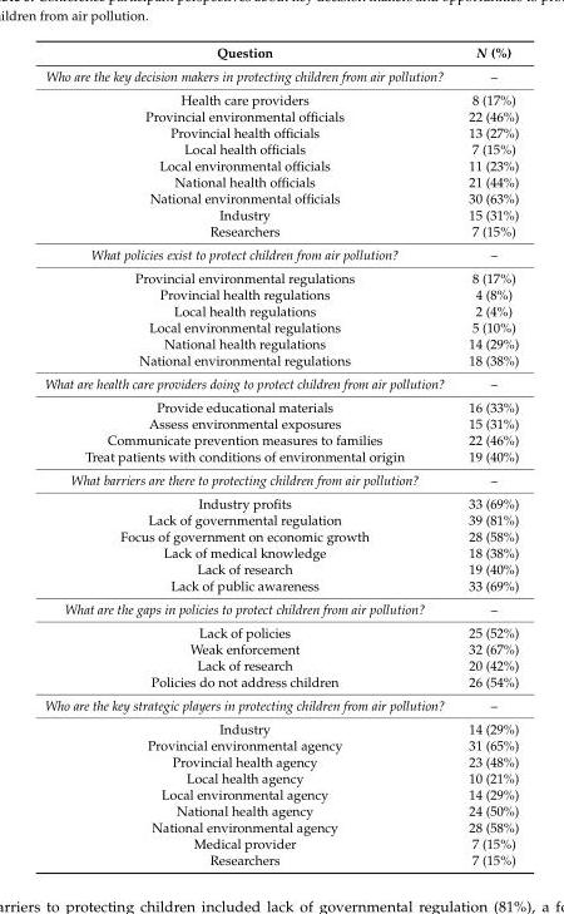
<table><thead><tr><td>Question</td><td>N (%)</td></tr></thead><tbody><tr><td>Who are the key decision makers in protecting children from air pollution?</td><td>–</td></tr><tr><td>Health care providers</td><td>8 (17%)</td></tr><tr><td>Provincial environmental officials</td><td>22 (46%)</td></tr><tr><td>Provincial health officials</td><td>13 (27%)</td></tr><tr><td>Local health officials</td><td>7 (15%)</td></tr><tr><td>Local environmental officials</td><td>11 (23%)</td></tr><tr><td>National health officials</td><td>21 (44%)</td></tr><tr><td>National environmental officials</td><td>30 (63%)</td></tr><tr><td>Industry</td><td>15 (31%)</td></tr><tr><td>Researchers</td><td>7 (15%)</td></tr><tr><td>What policies exist to protect children from air pollution?</td><td>–</td></tr><tr><td>Provincial environmental regulations</td><td>8 (17%)</td></tr><tr><td>Provincial health regulations</td><td>4 (8%)</td></tr><tr><td>Local health regulations</td><td>2 (4%)</td></tr><tr><td>Local environmental regulations</td><td>5 (10%)</td></tr><tr><td>National health regulations</td><td>14 (29%)</td></tr><tr><td>National environmental regulations</td><td>18 (38%)</td></tr><tr><td>What are health care providers doing to protect children from air pollution?</td><td>–</td></tr><tr><td>Provide educational materials</td><td>16 (33%)</td></tr><tr><td>Assess environmental exposures</td><td>15 (31%)</td></tr><tr><td>Communicate prevention measures to families</td><td>22 (46%)</td></tr><tr><td>Treat patients with conditions of environmental origin</td><td>19 (40%)</td></tr><tr><td>What barriers are there to protecting children from air pollution?</td><td>–</td></tr><tr><td>Industry profits</td><td>33 (69%)</td></tr><tr><td>Lack of governmental regulation</td><td>39 (81%)</td></tr><tr><td>Focus of government on economic growth</td><td>28 (58%)</td></tr><tr><td>Lack of medical knowledge</td><td>18 (38%)</td></tr><tr><td>Lack of research</td><td>19 (40%)</td></tr><tr><td>Lack of public awareness</td><td>33 (69%)</td></tr><tr><td>What are the gaps in policies to protect children from air pollution?</td><td>–</td></tr><tr><td>Lack of policies</td><td>25 (52%)</td></tr><tr><td>Weak enforcement</td><td>32 (67%)</td></tr><tr><td>Lack of research</td><td>20 (42%)</td></tr><tr><td>Policies do not address children</td><td>26 (54%)</td></tr><tr><td>Who are the key strategic players in protecting children from air pollution?</td><td>–</td></tr><tr><td>Industry</td><td>14 (29%)</td></tr><tr><td>Provincial environmental agency</td><td>31 (65%)</td></tr><tr><td>Provincial health agency</td><td>23 (48%)</td></tr><tr><td>Local health agency</td><td>10 (21%)</td></tr><tr><td>Local environmental agency</td><td>14 (29%)</td></tr><tr><td>National health agency</td><td>24 (50%)</td></tr><tr><td>National environmental agency</td><td>28 (58%)</td></tr><tr><td>Medical provider</td><td>7 (15%)</td></tr><tr><td>Researchers</td><td>7 (15%)</td></tr></tbody></table>